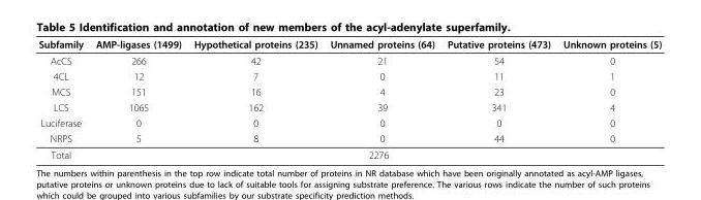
<table><thead><tr><td>Subfamily</td><td>AMP-ligases (1499)</td><td>Hypothetical proteins (235)</td><td>Unnamed proteins (64)</td><td>Putative proteins (473)</td><td>Unknown proteins (5)</td></tr></thead><tbody><tr><td>AcCS</td><td>266</td><td>42</td><td>21</td><td>54</td><td>0</td></tr><tr><td>4CL</td><td>12</td><td>7</td><td>0</td><td>11</td><td>1</td></tr><tr><td>MCS</td><td>151</td><td>16</td><td>4</td><td>23</td><td>0</td></tr><tr><td>LCS</td><td>1065</td><td>162</td><td>39</td><td>341</td><td>4</td></tr><tr><td>Luciferase</td><td>0</td><td>0</td><td>0</td><td>0</td><td>0</td></tr><tr><td>NRPS</td><td>5</td><td>8</td><td>0</td><td>44</td><td>0</td></tr><tr><td>Total</td><td colspan="5">2276</td></tr></tbody></table>